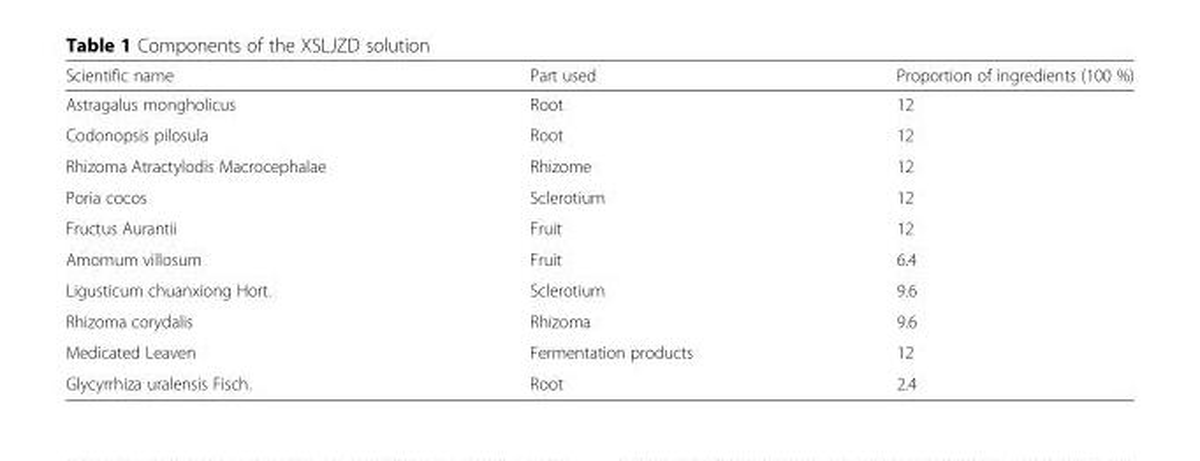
<table><thead><tr><td>Scientific name</td><td>Part used</td><td>Proportion of ingredients (100 %)</td></tr></thead><tbody><tr><td>Astragalus mongholicus</td><td>Root</td><td>12</td></tr><tr><td>Codonopsis pilosula</td><td>Root</td><td>12</td></tr><tr><td>Rhizoma Atractylodis Macrocephalae</td><td>Rhizome</td><td>12</td></tr><tr><td>Poria cocos</td><td>Sclerotium</td><td>12</td></tr><tr><td>Fructus Aurantii</td><td>Fruit</td><td>12</td></tr><tr><td>Amomum villosum</td><td>Fruit</td><td>6.4</td></tr><tr><td>Ligusticum chuanxiong Hort.</td><td>Sclerotium</td><td>9.6</td></tr><tr><td>Rhizoma corydalis</td><td>Rhizoma</td><td>9.6</td></tr><tr><td>Medicated Leaven</td><td>Fermentation products</td><td>12</td></tr><tr><td>Glycyrrhiza uralensis Fisch.</td><td>Root</td><td>2.4</td></tr></tbody></table>